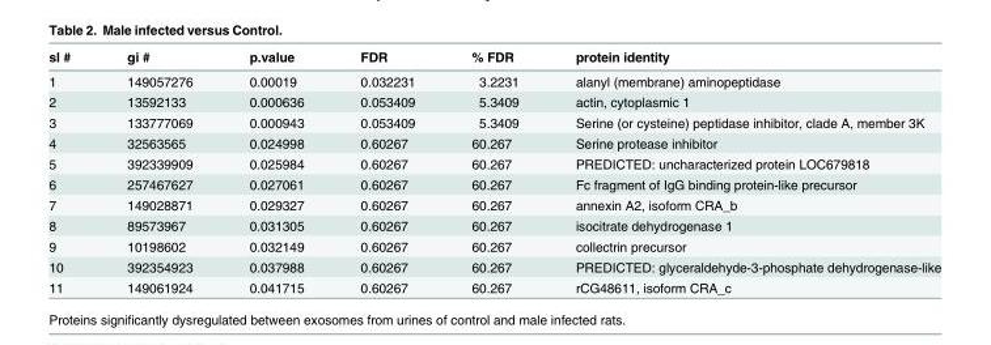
<table><thead><tr><td>sl #</td><td>gi #</td><td>p.value</td><td>FDR</td><td>% FDR</td><td>protein identity</td></tr></thead><tbody><tr><td>1</td><td>149057276</td><td>0.00019</td><td>0.032231</td><td>3.2231</td><td>alanyl (membrane) aminopeptidase</td></tr><tr><td>2</td><td>13592133</td><td>0.000636</td><td>0.053409</td><td>5.3409</td><td>actin, cytoplasmic 1</td></tr><tr><td>3</td><td>133777069</td><td>0.000943</td><td>0.053409</td><td>5.3409</td><td>Serine (or cysteine) peptidase inhibitor, clade A, member 3K</td></tr><tr><td>4</td><td>32563565</td><td>0.024998</td><td>0.60267</td><td>60.267</td><td>Serine protease inhibitor</td></tr><tr><td>5</td><td>392339909</td><td>0.025984</td><td>0.60267</td><td>60.267</td><td>PREDICTED: uncharacterized protein LOC679818</td></tr><tr><td>6</td><td>257467627</td><td>0.027061</td><td>0.60267</td><td>60.267</td><td>Fc fragment of IgG binding protein-like precursor</td></tr><tr><td>7</td><td>149028871</td><td>0.029327</td><td>0.60267</td><td>60.267</td><td>annexin A2, isoform CRA_b</td></tr><tr><td>8</td><td>89573967</td><td>0.031305</td><td>0.60267</td><td>60.267</td><td>isocitrate dehydrogenase 1</td></tr><tr><td>9</td><td>10198602</td><td>0.032149</td><td>0.60267</td><td>60.267</td><td>collectrin precursor</td></tr><tr><td>10</td><td>392354923</td><td>0.037988</td><td>0.60267</td><td>60.267</td><td>PREDICTED: glyceraldehyde-3-phosphate dehydrogenase-like</td></tr><tr><td>11</td><td>149061924</td><td>0.041715</td><td>0.60267</td><td>60.267</td><td>rCG48611, isoform CRA_c</td></tr></tbody></table>